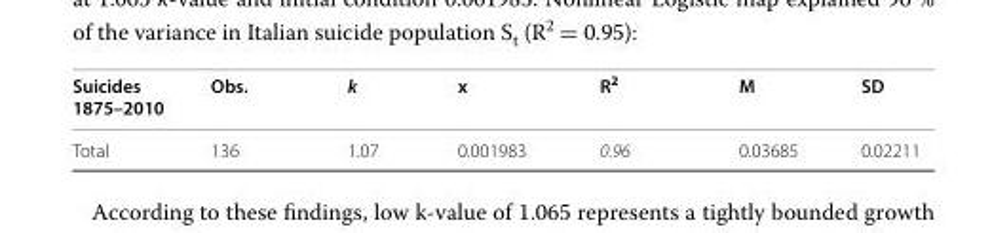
<table><thead><tr><td>Suicides 1875–2010</td><td>Obs.</td><td>k</td><td>x</td><td>R<sup>2</sup></td><td>M</td><td>SD</td></tr></thead><tbody><tr><td>Total</td><td>136</td><td>1.07</td><td>0.001983</td><td>0.96</td><td>0.03685</td><td>0.02211</td></tr></tbody></table>